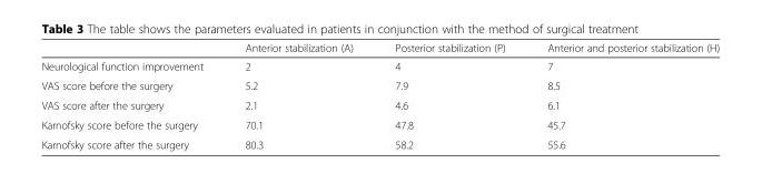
<table><thead><tr><td></td><td>Anterior stabilization (A)</td><td>Posterior stabilization (P)</td><td>Anterior and posterior stabilization (H)</td></tr></thead><tbody><tr><td>Neurological function improvement</td><td>2</td><td>4</td><td>7</td></tr><tr><td>VAS score before the surgery</td><td>5.2</td><td>7.9</td><td>8.5</td></tr><tr><td>VAS score after the surgery</td><td>2.1</td><td>4.6</td><td>6.1</td></tr><tr><td>Karnofsky score before the surgery</td><td>70.1</td><td>47.8</td><td>45.7</td></tr><tr><td>Karnofsky score after the surgery</td><td>80.3</td><td>58.2</td><td>55.6</td></tr></tbody></table>